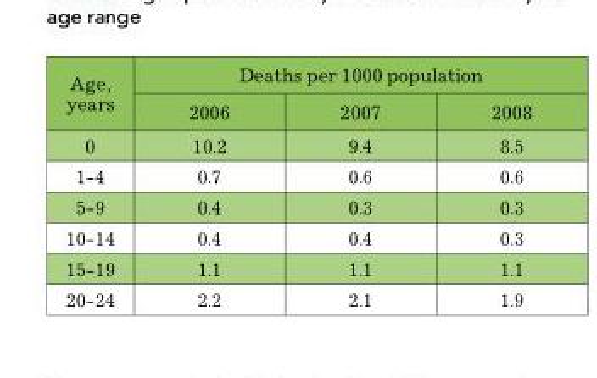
<table><thead><tr><td rowspan="2">Age, years</td><td colspan="3">Deaths per 1000 population</td></tr><tr><td>2006</td><td>2007</td><td>2008</td></tr></thead><tbody><tr><td>0</td><td>10.2</td><td>9.4</td><td>8.5</td></tr><tr><td>1-4</td><td>0.7</td><td>0.6</td><td>0.6</td></tr><tr><td>5-9</td><td>0.4</td><td>0.3</td><td>0.3</td></tr><tr><td>10-14</td><td>0.4</td><td>0.4</td><td>0.3</td></tr><tr><td>15-19</td><td>1.1</td><td>1.1</td><td>1.1</td></tr><tr><td>20-24</td><td>2.2</td><td>2.1</td><td>1.9</td></tr></tbody></table>